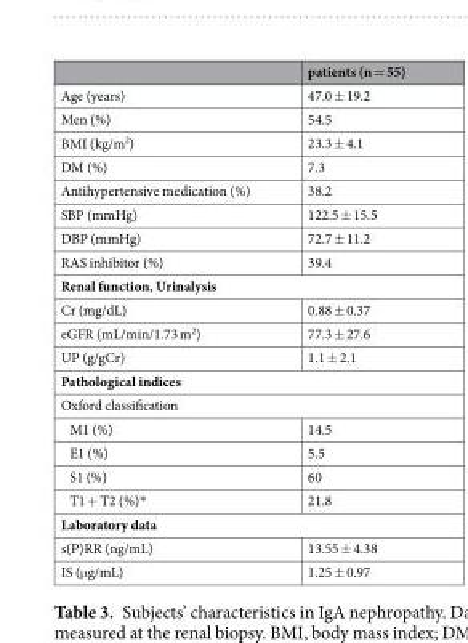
<table><thead><tr><td></td><td>patients (n = 55)</td></tr></thead><tbody><tr><td>Age (years)</td><td>47.0 ± 19.2</td></tr><tr><td>Men (%)</td><td>54.5</td></tr><tr><td>BMI (kg/m<sup>2</sup>)</td><td>23.3 ± 4.1</td></tr><tr><td>DM (%)</td><td>7.3</td></tr><tr><td>Antihypertensive medication (%)</td><td>38.2</td></tr><tr><td>SBP (mmHg)</td><td>122.5 ± 15.5</td></tr><tr><td>DBP (mmHg)</td><td>72.7 ± 11.2</td></tr><tr><td>RAS inhibitor (%)</td><td>39.4</td></tr><tr><td colspan="2">Renal function, Urinalysis</td></tr><tr><td>Cr (mg/dL)</td><td>0.88 ± 0.37</td></tr><tr><td>eGFR (mL/min/1.73 m<sup>2</sup>)</td><td>77.3 ± 27.6</td></tr><tr><td>UP (g/gCr)</td><td>1.1 ± 2.1</td></tr><tr><td colspan="2">Pathological indices</td></tr><tr><td colspan="2">Oxford classification</td></tr><tr><td>M1 (%)</td><td>14.5</td></tr><tr><td>E1 (%)</td><td>5.5</td></tr><tr><td>S1 (%)</td><td>60</td></tr><tr><td>T1 + T2 (%)*</td><td>21.8</td></tr><tr><td colspan="2">Laboratory data</td></tr><tr><td>s(P)RR (ng/mL)</td><td>13.55 ± 4.38</td></tr><tr><td>IS (μg/mL)</td><td>1.25 ± 0.97</td></tr></tbody></table>